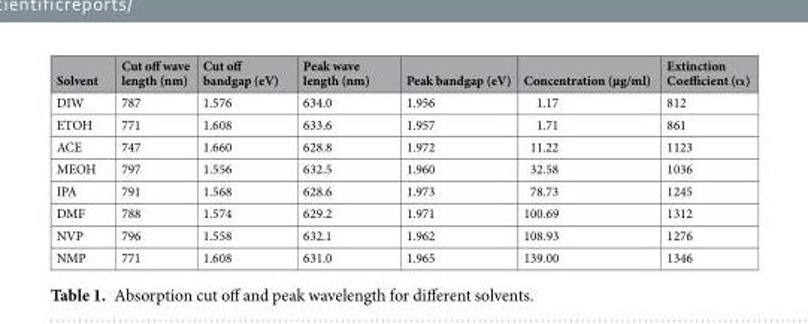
<table><thead><tr><td>Solvent</td><td>Cut off wave length (nm)</td><td>Cut off bandgap (eV)</td><td>Peak wave length (nm)</td><td>Peak bandgap (eV)</td><td>Concentration (µg/ml)</td><td>Extinction Coefficient (α)</td></tr></thead><tbody><tr><td>DIW</td><td>787</td><td>1.576</td><td>634.0</td><td>1.956</td><td>1.17</td><td>812</td></tr><tr><td>ETOH</td><td>771</td><td>1.608</td><td>633.6</td><td>1.957</td><td>1.71</td><td>861</td></tr><tr><td>ACE</td><td>747</td><td>1.660</td><td>628.8</td><td>1.972</td><td>11.22</td><td>1123</td></tr><tr><td>MEOH</td><td>797</td><td>1.556</td><td>632.5</td><td>1.960</td><td>32.58</td><td>1036</td></tr><tr><td>IPA</td><td>791</td><td>1.568</td><td>628.6</td><td>1.973</td><td>78.73</td><td>1245</td></tr><tr><td>DMF</td><td>788</td><td>1.574</td><td>629.2</td><td>1.971</td><td>100.69</td><td>1312</td></tr><tr><td>NVP</td><td>796</td><td>1.558</td><td>632.1</td><td>1.962</td><td>108.93</td><td>1276</td></tr><tr><td>NMP</td><td>771</td><td>1.608</td><td>631.0</td><td>1.965</td><td>139.00</td><td>1346</td></tr></tbody></table>